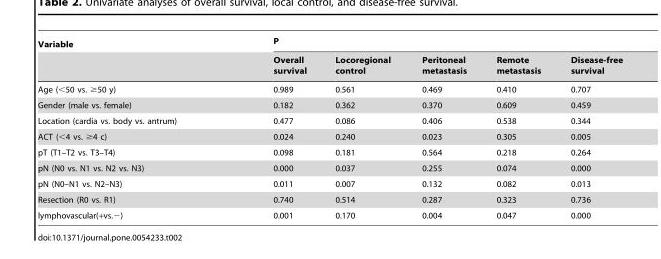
<table><thead><tr><td rowspan="2">Variable</td><td colspan="5">P</td></tr><tr><td>Overall survival</td><td>Locoregional control</td><td>Peritoneal metastasis</td><td>Remote metastasis</td><td>Disease-free survival</td></tr></thead><tbody><tr><td>Age (&lt;50 vs. ≥50 y)</td><td>0.989</td><td>0.561</td><td>0.469</td><td>0.410</td><td>0.707</td></tr><tr><td>Gender (male vs. female)</td><td>0.182</td><td>0.362</td><td>0.370</td><td>0.609</td><td>0.459</td></tr><tr><td>Location (cardia vs. body vs. antrum)</td><td>0.477</td><td>0.086</td><td>0.406</td><td>0.538</td><td>0.344</td></tr><tr><td>ACT (&lt;4 vs. ≥4 c)</td><td>0.024</td><td>0.240</td><td>0.023</td><td>0.305</td><td>0.005</td></tr><tr><td>pT (T1–T2 vs. T3–T4)</td><td>0.098</td><td>0.181</td><td>0.564</td><td>0.218</td><td>0.264</td></tr><tr><td>pN (N0 vs. N1 vs. N2 vs. N3)</td><td>0.000</td><td>0.037</td><td>0.255</td><td>0.074</td><td>0.000</td></tr><tr><td>pN (N0–N1 vs. N2–N3)</td><td>0.011</td><td>0.007</td><td>0.132</td><td>0.082</td><td>0.013</td></tr><tr><td>Resection (R0 vs. R1)</td><td>0.740</td><td>0.514</td><td>0.287</td><td>0.323</td><td>0.736</td></tr><tr><td>lymphovascular(+vs.−)</td><td>0.001</td><td>0.170</td><td>0.004</td><td>0.047</td><td>0.000</td></tr></tbody></table>